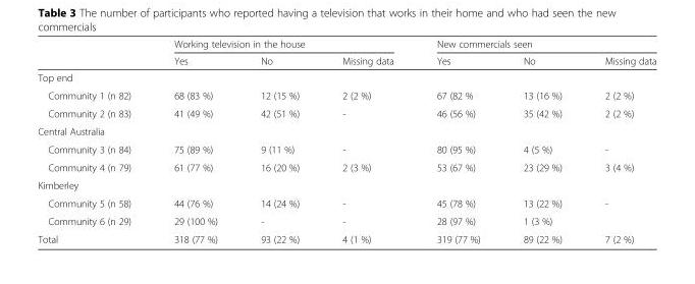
<table><thead><tr><td rowspan="2"></td><td colspan="3">Working television in the house</td><td colspan="3">New commercials seen</td></tr><tr><td>Yes</td><td>No</td><td>Missing data</td><td>Yes</td><td>No</td><td>Missing data</td></tr></thead><tbody><tr><td colspan="7">Top end</td></tr><tr><td>Community 1 (n 82)</td><td>68 (83 %)</td><td>12 (15 %)</td><td>2 (2 %)</td><td>67 (82 %</td><td>13 (16 %)</td><td>2 (2 %)</td></tr><tr><td>Community 2 (n 83)</td><td>41 (49 %)</td><td>42 (51 %)</td><td>-</td><td>46 (56 %)</td><td>35 (42 %)</td><td>2 (2 %)</td></tr><tr><td colspan="7">Central Australia</td></tr><tr><td>Community 3 (n 84)</td><td>75 (89 %)</td><td>9 (11 %)</td><td>-</td><td>80 (95 %)</td><td>4 (5 %)</td><td>-</td></tr><tr><td>Community 4 (n 79)</td><td>61 (77 %)</td><td>16 (20 %)</td><td>2 (3 %)</td><td>53 (67 %)</td><td>23 (29 %)</td><td>3 (4 %)</td></tr><tr><td colspan="7">Kimberley</td></tr><tr><td>Community 5 (n 58)</td><td>44 (76 %)</td><td>14 (24 %)</td><td>-</td><td>45 (78 %)</td><td>13 (22 %)</td><td>-</td></tr><tr><td>Community 6 (n 29)</td><td>29 (100 %)</td><td>-</td><td>-</td><td>28 (97 %)</td><td>1 (3 %)</td><td></td></tr><tr><td>Total</td><td>318 (77 %)</td><td>93 (22 %)</td><td>4 (1 %)</td><td>319 (77 %)</td><td>89 (22 %)</td><td>7 (2 %)</td></tr></tbody></table>